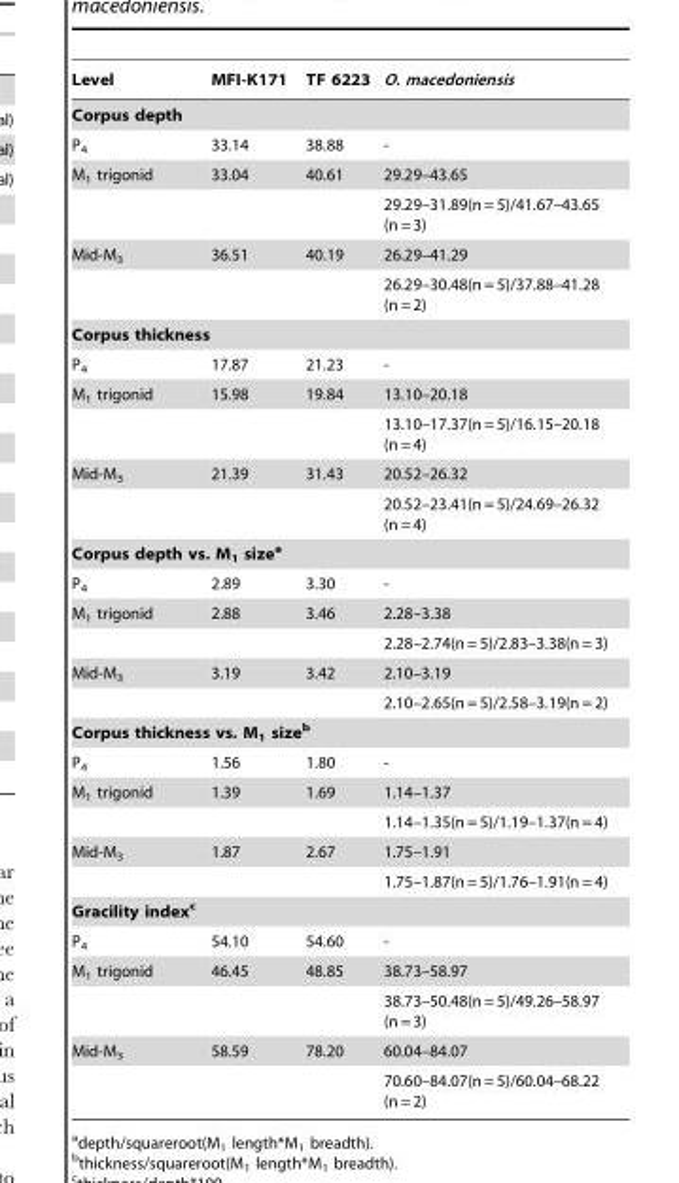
<table><thead><tr><td>Level</td><td>MFI-K171</td><td>TF 6223</td><td>O. macedoniensis</td></tr></thead><tbody><tr><td colspan="4">Corpus depth</td></tr><tr><td>P<sub>4</sub></td><td>33.14</td><td>38.88</td><td>-</td></tr><tr><td rowspan="2">M<sub>1</sub> trigonid</td><td>33.04</td><td>40.61</td><td>29.29–43.65</td></tr><tr><td></td><td></td><td>29.29–31.89(n = 5)/41.67–43.65 (n = 3)</td></tr><tr><td rowspan="2">Mid-M<sub>3</sub></td><td>36.51</td><td>40.19</td><td>26.29–41.29</td></tr><tr><td></td><td></td><td>26.29–30.48(n = 5)/37.88–41.28 (n = 2)</td></tr><tr><td colspan="4">Corpus thickness</td></tr><tr><td>P<sub>4</sub></td><td>17.87</td><td>21.23</td><td>-</td></tr><tr><td rowspan="2">M<sub>1</sub> trigonid</td><td>15.98</td><td>19.84</td><td>13.10–20.18</td></tr><tr><td></td><td></td><td>13.10–17.37(n = 5)/16.15–20.18 (n = 4)</td></tr><tr><td rowspan="2">Mid-M<sub>3</sub></td><td>21.39</td><td>31.43</td><td>20.52–26.32</td></tr><tr><td></td><td></td><td>20.52–23.41(n = 5)/24.69–26.32 (n = 4)</td></tr><tr><td colspan="4">Corpus depth vs. M<sub>1</sub> sizea</td></tr><tr><td>P<sub>4</sub></td><td>2.89</td><td>3.30</td><td>-</td></tr><tr><td rowspan="2">M<sub>1</sub> trigonid</td><td>2.88</td><td>3.46</td><td>2.28–3.38</td></tr><tr><td></td><td></td><td>2.28–2.74(n = 5)/2.83–3.38(n = 3)</td></tr><tr><td rowspan="2">Mid-M<sub>3</sub></td><td>3.19</td><td>3.42</td><td>2.10–3.19</td></tr><tr><td></td><td></td><td>2.10–2.65(n = 5)/2.58–3.19(n = 2)</td></tr><tr><td colspan="4">Corpus thickness vs. M<sub>1</sub> sizeb</td></tr><tr><td>P<sub>4</sub></td><td>1.56</td><td>1.80</td><td>-</td></tr><tr><td rowspan="2">M<sub>1</sub> trigonid</td><td>1.39</td><td>1.69</td><td>1.14–1.37</td></tr><tr><td></td><td></td><td>1.14–1.35(n = 5)/1.19–1.37(n = 4)</td></tr><tr><td rowspan="2">Mid-M<sub>3</sub></td><td>1.87</td><td>2.67</td><td>1.75–1.91</td></tr><tr><td></td><td></td><td>1.75–1.87(n = 5)/1.76–1.91(n = 4)</td></tr><tr><td colspan="4">Gracility indexc</td></tr><tr><td>P<sub>4</sub></td><td>54.10</td><td>54.60</td><td>-</td></tr><tr><td rowspan="2">M<sub>1</sub> trigonid</td><td>46.45</td><td>48.85</td><td>38.73–58.97</td></tr><tr><td></td><td></td><td>38.73–50.48(n = 5)/49.26–58.97 (n = 3)</td></tr><tr><td rowspan="2">Mid-M<sub>3</sub></td><td>58.59</td><td>78.20</td><td>60.04–84.07</td></tr><tr><td></td><td></td><td>70.60–84.07(n = 5)/60.04–68.22 (n = 2)</td></tr></tbody></table>